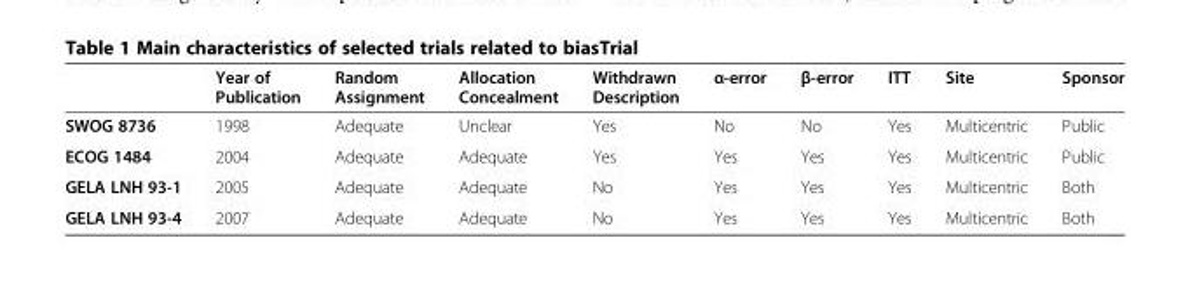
<table><thead><tr><td></td><td>Year of Publication</td><td>Random Assignment</td><td>Allocation Concealment</td><td>Withdrawn Description</td><td>α-error</td><td>β-error</td><td>ITT</td><td>Site</td><td>Sponsor</td></tr></thead><tbody><tr><td>SWOG 8736</td><td>1998</td><td>Adequate</td><td>Unclear</td><td>Yes</td><td>No</td><td>No</td><td>Yes</td><td>Multicentric</td><td>Public</td></tr><tr><td>ECOG 1484</td><td>2004</td><td>Adequate</td><td>Adequate</td><td>Yes</td><td>Yes</td><td>Yes</td><td>Yes</td><td>Multicentric</td><td>Public</td></tr><tr><td>GELA LNH 93-1</td><td>2005</td><td>Adequate</td><td>Adequate</td><td>No</td><td>Yes</td><td>Yes</td><td>Yes</td><td>Multicentric</td><td>Both</td></tr><tr><td>GELA LNH 93-4</td><td>2007</td><td>Adequate</td><td>Adequate</td><td>No</td><td>Yes</td><td>Yes</td><td>Yes</td><td>Multicentric</td><td>Both</td></tr></tbody></table>